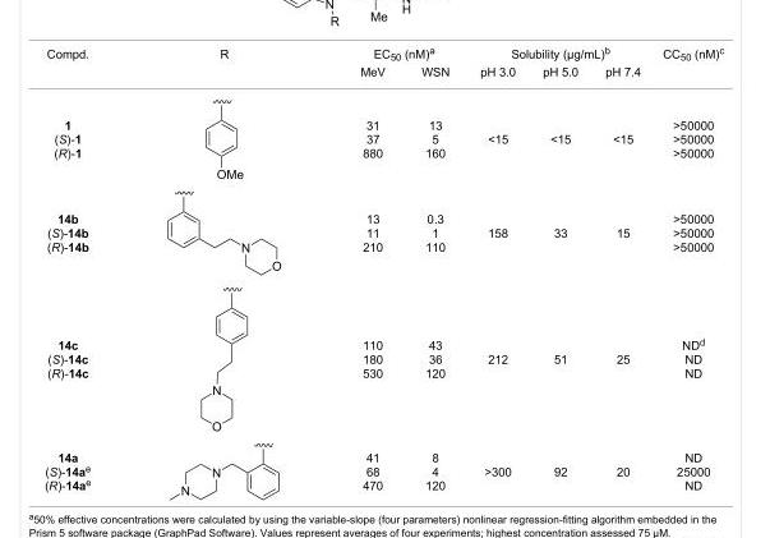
<table><tbody><tr><td rowspan="2">Compd.</td><td rowspan="2">R</td><td colspan="2">EC<sub>50</sub> (nM)<sup>a</sup></td><td colspan="3">Solubility (µg/mL)<sup>b</sup></td><td rowspan="2">CC<sub>50</sub> (nM)<sup>c</sup></td></tr><tr><td>MeV</td><td>WSN</td><td>pH 3.0</td><td>pH 5.0</td><td>pH 7.4</td></tr><tr><td>1 (S)-1 (R)-1</td><td></td><td>31 37 880</td><td>13 5 160</td><td>&lt;15</td><td>&lt;15</td><td>&lt;15</td><td>&gt;50000 &gt;50000 &gt;50000</td></tr><tr><td>14b (S)-14b (R)-14b</td><td></td><td>13 11 210</td><td>0.3 1 110</td><td>158</td><td>33</td><td>15</td><td>&gt;50000 &gt;50000 &gt;50000</td></tr><tr><td>14c (S)-14c (R)-14c</td><td></td><td>110 180 530</td><td>43 36 120</td><td>212</td><td>51</td><td>25</td><td>ND<sup>d</sup> ND ND</td></tr><tr><td>14a (S)-14a<sup>e</sup> (R)-14a<sup>e</sup></td><td></td><td>41 68 470</td><td>8 4 120</td><td>&gt;300</td><td>92</td><td>20</td><td>ND 25000 ND</td></tr></tbody></table>